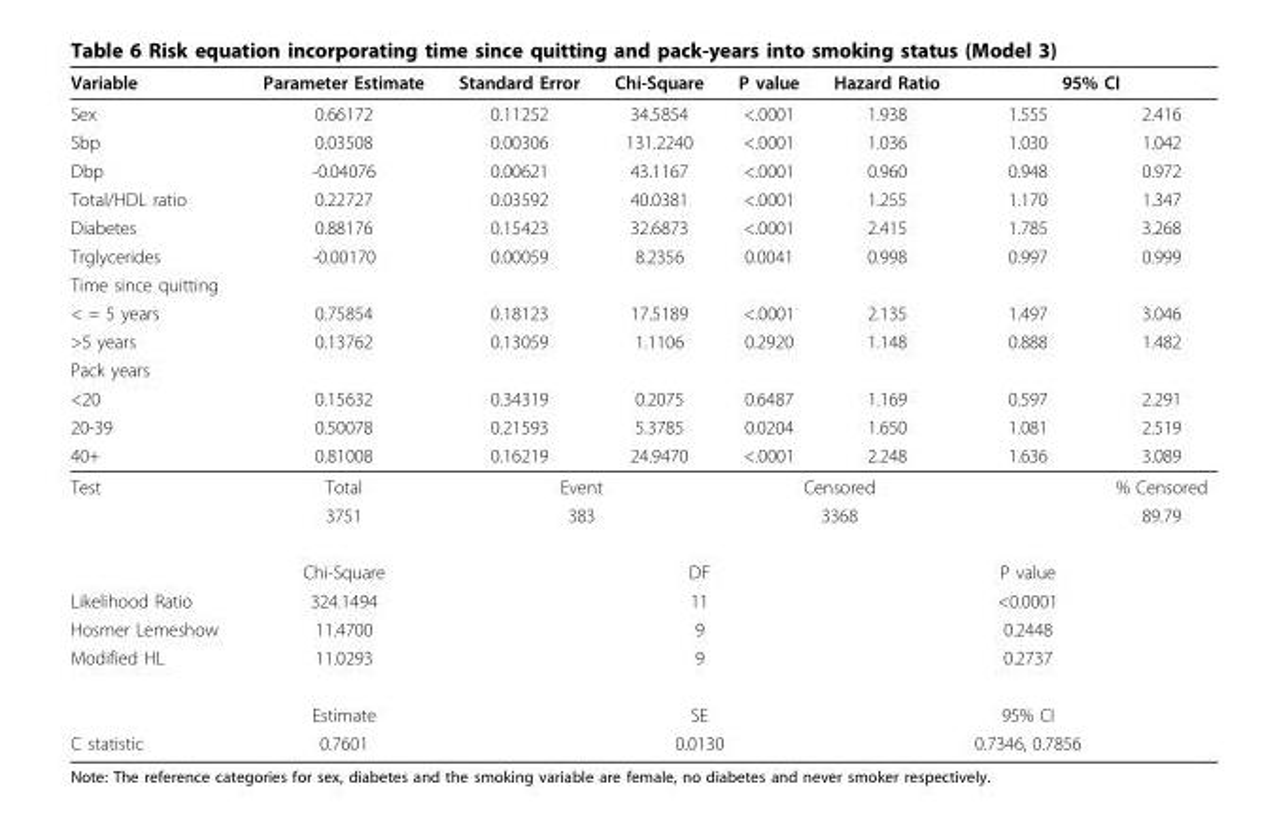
<table><thead><tr><td rowspan="2">Variable Sex</td><td rowspan="2">Parameter Estimate 0.66172</td><td rowspan="2">Standard Error 0.11252</td><td rowspan="2">Chi-Square 34.5854</td><td rowspan="2">P value &lt;.0001</td><td rowspan="2">Hazard Ratio 1.938</td><td colspan="2">95% CI</td></tr><tr><td>1.555</td><td>2.416</td></tr></thead><tbody><tr><td>Sbp</td><td>0.03508</td><td>0.00306</td><td>131.2240</td><td>&lt;.0001</td><td>1.036</td><td>1.030</td><td>1.042</td></tr><tr><td>Dbp</td><td>-0.04076</td><td>0.00621</td><td>43.1167</td><td>&lt;.0001</td><td>0.960</td><td>0.948</td><td>0.972</td></tr><tr><td>Total/HDL ratio</td><td>0.22727</td><td>0.03592</td><td>40.0381</td><td>&lt;.0001</td><td>1.255</td><td>1.170</td><td>1.347</td></tr><tr><td>Diabetes</td><td>0.88176</td><td>0.15423</td><td>32.6873</td><td>&lt;.0001</td><td>2.415</td><td>1.785</td><td>3.268</td></tr><tr><td>Trglycerides</td><td>-0.00170</td><td>0.00059</td><td>8.2356</td><td>0.0041</td><td>0.998</td><td>0.997</td><td>0.999</td></tr><tr><td colspan="8">Time since quitting</td></tr><tr><td>&lt; = 5 years</td><td>0.75854</td><td>0.18123</td><td>17.5189</td><td>&lt;.0001</td><td>2.135</td><td>1.497</td><td>3.046</td></tr><tr><td>&gt;5 years</td><td>0.13762</td><td>0.13059</td><td>1.1106</td><td>0.2920</td><td>1.148</td><td>0.888</td><td>1.482</td></tr><tr><td colspan="8">Pack years</td></tr><tr><td>&lt;20</td><td>0.15632</td><td>0.34319</td><td>0.2075</td><td>0.6487</td><td>1.169</td><td>0.597</td><td>2.291</td></tr><tr><td>20-39</td><td>0.50078</td><td>0.21593</td><td>5.3785</td><td>0.0204</td><td>1.650</td><td>1.081</td><td>2.519</td></tr><tr><td>40+</td><td>0.81008</td><td>0.16219</td><td>24.9470</td><td>&lt;.0001</td><td>2.248</td><td>1.636</td><td>3.089</td></tr><tr><td rowspan="3">Test</td><td>Total</td><td colspan="2">Event</td><td colspan="2">Censored</td><td></td><td>% Censored</td></tr><tr><td>3751</td><td colspan="2">383</td><td colspan="2">3368</td><td></td><td>89.79</td></tr><tr><td>Chi-Square</td><td colspan="4">DF</td><td>P value</td><td></td></tr><tr><td>Likelihood Ratio</td><td>324.1494</td><td colspan="4">11</td><td>&lt;0.0001</td><td></td></tr><tr><td>Hosmer Lemeshow</td><td>11.4700</td><td colspan="4">9</td><td>0.2448</td><td></td></tr><tr><td rowspan="2">Modified HL</td><td>11.0293</td><td colspan="4">9</td><td>0.2737</td><td></td></tr><tr><td>Estimate</td><td colspan="4">SE</td><td>95% CI</td><td></td></tr><tr><td>C statistic</td><td>0.7601</td><td colspan="4">0.0130</td><td>0.7346, 0.7856</td><td></td></tr></tbody></table>